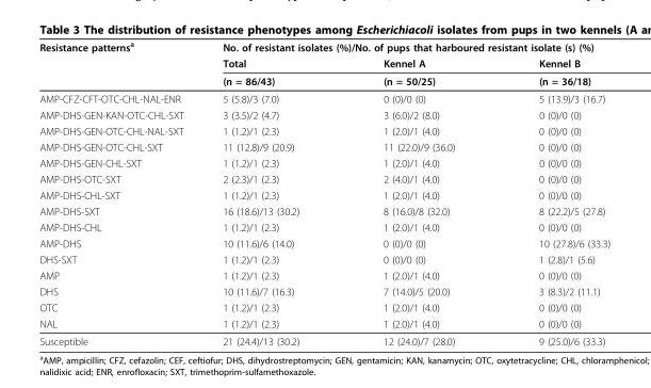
<table><thead><tr><td rowspan="3">Resistance patterns<sup>a</sup></td><td colspan="3">No. of resistant isolates (%)/No. of pups that harboured resistant isolate (s) (%)</td></tr><tr><td rowspan="2">Total (n = 86/43)</td><td rowspan="2">Kennel A (n = 50/25)</td><td rowspan="2">Kennel B (n = 36/18)</td></tr><tr></tr></thead><tbody><tr><td>AMP-CFZ-CFT-OTC-CHL-NAL-ENR</td><td>5 (5.8)/3 (7.0)</td><td>0 (0)/0 (0)</td><td>5 (13.9)/3 (16.7)</td></tr><tr><td>AMP-DHS-GEN-KAN-OTC-CHL-SXT</td><td>3 (3.5)/2 (4.7)</td><td>3 (6.0)/2 (8.0)</td><td>0 (0)/0 (0)</td></tr><tr><td>AMP-DHS-GEN-OTC-CHL-NAL-SXT</td><td>1 (1.2)/1 (2.3)</td><td>1 (2.0)/1 (4.0)</td><td>0 (0)/0 (0)</td></tr><tr><td>AMP-DHS-GEN-OTC-CHL-SXT</td><td>11 (12.8)/9 (20.9)</td><td>11 (22.0)/9 (36.0)</td><td>0 (0)/0 (0)</td></tr><tr><td>AMP-DHS-GEN-CHL-SXT</td><td>1 (1.2)/1 (2.3)</td><td>1 (2.0)/1 (4.0)</td><td>0 (0)/0 (0)</td></tr><tr><td>AMP-DHS-OTC-SXT</td><td>2 (2.3)/1 (2.3)</td><td>2 (4.0)/1 (4.0)</td><td>0 (0)/0 (0)</td></tr><tr><td>AMP-DHS-CHL-SXT</td><td>1 (1.2)/1 (2.3)</td><td>1 (2.0)/1 (4.0)</td><td>0 (0)/0 (0)</td></tr><tr><td>AMP-DHS-SXT</td><td>16 (18.6)/13 (30.2)</td><td>8 (16.0)/8 (32.0)</td><td>8 (22.2)/5 (27.8)</td></tr><tr><td>AMP-DHS-CHL</td><td>1 (1.2)/1 (2.3)</td><td>1 (2.0)/1 (4.0)</td><td>0 (0)/0 (0)</td></tr><tr><td>AMP-DHS</td><td>10 (11.6)/6 (14.0)</td><td>0 (0)/0 (0)</td><td>10 (27.8)/6 (33.3)</td></tr><tr><td>DHS-SXT</td><td>1 (1.2)/1 (2.3)</td><td>0 (0)/0 (0)</td><td>1 (2.8)/1 (5.6)</td></tr><tr><td>AMP</td><td>1 (1.2)/1 (2.3)</td><td>1 (2.0)/1 (4.0)</td><td>0 (0)/0 (0)</td></tr><tr><td>DHS</td><td>10 (11.6)/7 (16.3)</td><td>7 (14.0)/5 (20.0)</td><td>3 (8.3)/2 (11.1)</td></tr><tr><td>OTC</td><td>1 (1.2)/1 (2.3)</td><td>1 (2.0)/1 (4.0)</td><td>0 (0)/0 (0)</td></tr><tr><td>NAL</td><td>1 (1.2)/1 (2.3)</td><td>1 (2.0)/1 (4.0)</td><td>0 (0)/0 (0)</td></tr><tr><td>Susceptible</td><td>21 (24.4)/13 (30.2)</td><td>12 (24.0)/7 (28.0)</td><td>9 (25.0)/6 (33.3)</td></tr></tbody></table>